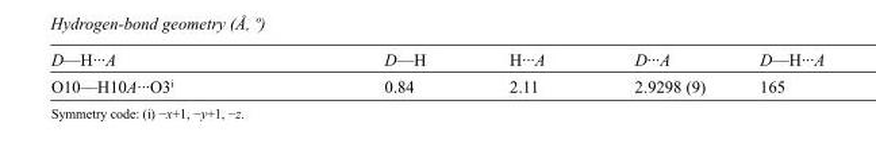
<table><tbody><tr><td>D—H···A</td><td>D—H</td><td>H···A</td><td>D···A</td><td>D—H···A</td></tr><tr><td>O10—H10A···O3<sup>i</sup></td><td>0.84</td><td>2.11</td><td>2.9298 (9)</td><td>165</td></tr></tbody></table>